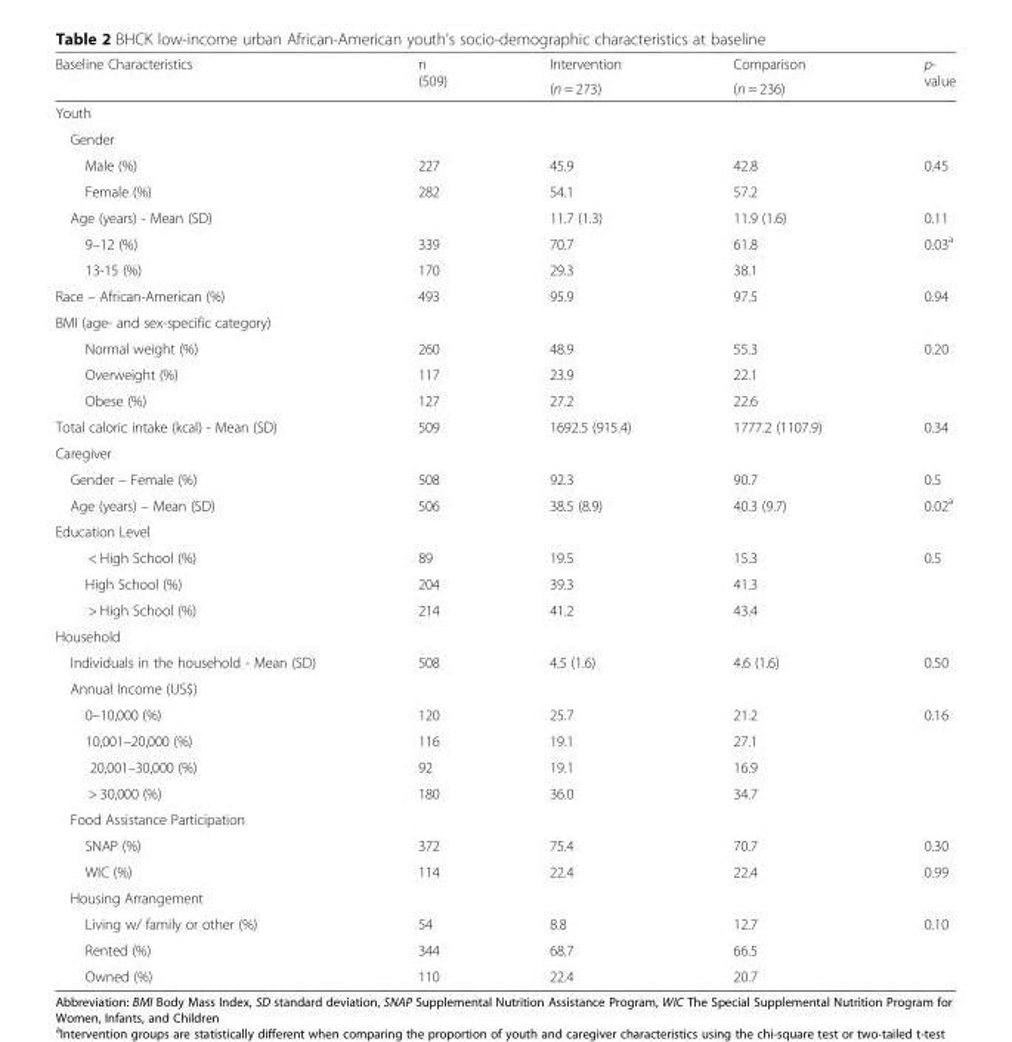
<table><thead><tr><td rowspan="2">Baseline Characteristics</td><td rowspan="2">n (509)</td><td rowspan="2">Intervention (n = 273)</td><td rowspan="2">Comparison (n = 236)</td><td rowspan="2">p- value</td></tr><tr></tr></thead><tbody><tr><td colspan="5">Youth</td></tr><tr><td colspan="5">Gender</td></tr><tr><td>Male (%)</td><td>227</td><td>45.9</td><td>42.8</td><td rowspan="2">0.45</td></tr><tr><td>Female (%)</td><td>282</td><td>54.1</td><td>57.2</td></tr><tr><td>Age (years) - Mean (SD)</td><td></td><td>11.7 (1.3)</td><td>11.9 (1.6)</td><td>0.11</td></tr><tr><td>9–12 (%)</td><td>339</td><td>70.7</td><td>61.8</td><td rowspan="2">0.03<sup>a</sup></td></tr><tr><td>13-15 (%)</td><td>170</td><td>29.3</td><td>38.1</td></tr><tr><td>Race – African-American (%)</td><td>493</td><td>95.9</td><td>97.5</td><td>0.94</td></tr><tr><td colspan="5">BMI (age- and sex-specific category)</td></tr><tr><td>Normal weight (%)</td><td>260</td><td>48.9</td><td>55.3</td><td rowspan="3">0.20</td></tr><tr><td>Overweight (%)</td><td>117</td><td>23.9</td><td>22.1</td></tr><tr><td>Obese (%)</td><td>127</td><td>27.2</td><td>22.6</td></tr><tr><td>Total caloric intake (kcal) - Mean (SD)</td><td>509</td><td>1692.5 (915.4)</td><td>1777.2 (1107.9)</td><td>0.34</td></tr><tr><td colspan="5">Caregiver</td></tr><tr><td>Gender – Female (%)</td><td>508</td><td>92.3</td><td>90.7</td><td>0.5</td></tr><tr><td>Age (years) – Mean (SD)</td><td>506</td><td>38.5 (8.9)</td><td>40.3 (9.7)</td><td>0.02<sup>a</sup></td></tr><tr><td colspan="5">Education Level</td></tr><tr><td>&lt; High School (%)</td><td>89</td><td>19.5</td><td>15.3</td><td rowspan="3">0.5</td></tr><tr><td>High School (%)</td><td>204</td><td>39.3</td><td>41.3</td></tr><tr><td>&gt; High School (%)</td><td>214</td><td>41.2</td><td>43.4</td></tr><tr><td colspan="5">Household</td></tr><tr><td>Individuals in the household - Mean (SD)</td><td>508</td><td>4.5 (1.6)</td><td>4.6 (1.6)</td><td>0.50</td></tr><tr><td colspan="5">Annual Income (US$)</td></tr><tr><td>0–10,000 (%)</td><td>120</td><td>25.7</td><td>21.2</td><td>0.16</td></tr><tr><td>10,001–20,000 (%)</td><td>116</td><td>19.1</td><td>27.1</td><td></td></tr><tr><td>20,001–30,000 (%)</td><td>92</td><td>19.1</td><td>16.9</td><td></td></tr><tr><td>&gt; 30,000 (%)</td><td>180</td><td>36.0</td><td>34.7</td><td></td></tr><tr><td colspan="5">Food Assistance Participation</td></tr><tr><td>SNAP (%)</td><td>372</td><td>75.4</td><td>70.7</td><td>0.30</td></tr><tr><td>WIC (%)</td><td>114</td><td>22.4</td><td>22.4</td><td>0.99</td></tr><tr><td colspan="5">Housing Arrangement</td></tr><tr><td>Living w/ family or other (%)</td><td>54</td><td>8.8</td><td>12.7</td><td>0.10</td></tr><tr><td>Rented (%)</td><td>344</td><td>68.7</td><td>66.5</td><td></td></tr><tr><td>Owned (%)</td><td>110</td><td>22.4</td><td>20.7</td><td></td></tr></tbody></table>